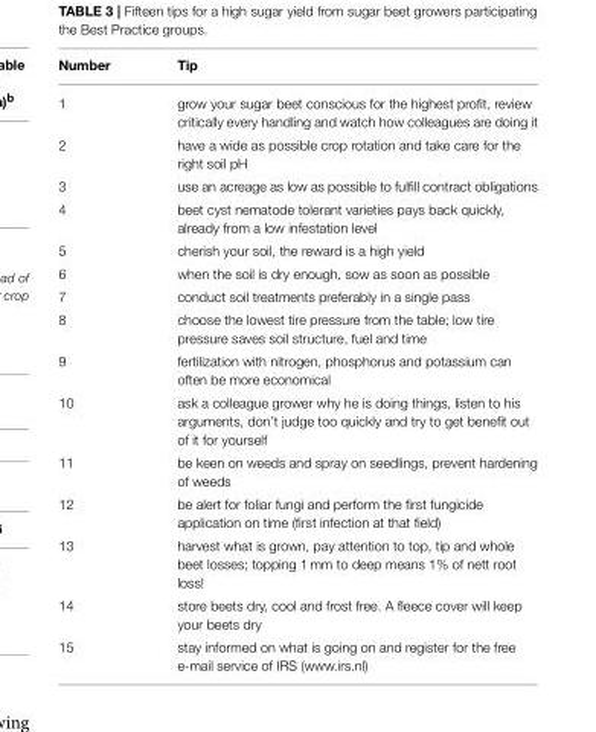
<table><thead><tr><td>Number</td><td>Tip</td></tr></thead><tbody><tr><td>1</td><td>grow your sugar beet conscious for the highest profit, review critically every handling and watch how colleagues are doing it</td></tr><tr><td>2</td><td>have a wide as possible crop rotation and take care for the right soil pH</td></tr><tr><td>3</td><td>use an acreage as low as possible to fulfill contract obligations</td></tr><tr><td>4</td><td>beet cyst nematode tolerant varieties pays back quickly, already from a low infestation level</td></tr><tr><td>5</td><td>cherish your soil, the reward is a high yield</td></tr><tr><td>6</td><td>when the soil is dry enough, sow as soon as possible</td></tr><tr><td>7</td><td>conduct soil treatments preferably in a single pass</td></tr><tr><td>8</td><td>choose the lowest tire pressure from the table; low tire pressure saves soil structure, fuel and time</td></tr><tr><td>9</td><td>fertilization with nitrogen, phosphorus and potassium can often be more economical</td></tr><tr><td>10</td><td>ask a colleague grower why he is doing things, listen to his arguments, don’t judge too quickly and try to get benefit out of it for yourself</td></tr><tr><td>11</td><td>be keen on weeds and spray on seedlings, prevent hardening of weeds</td></tr><tr><td>12</td><td>be alert for foliar fungi and perform the first fungicide application on time (first infection at that field)</td></tr><tr><td>13</td><td>harvest what is grown, pay attention to top, tip and whole beet losses; topping 1 mm to deep means 1% of nett root loss!</td></tr><tr><td>14</td><td>store beets dry, cool and frost free. A fleece cover will keep your beets dry</td></tr><tr><td>15</td><td>stay informed on what is going on and register for the free e-mail service of IRS (www.irs.nl)</td></tr></tbody></table>